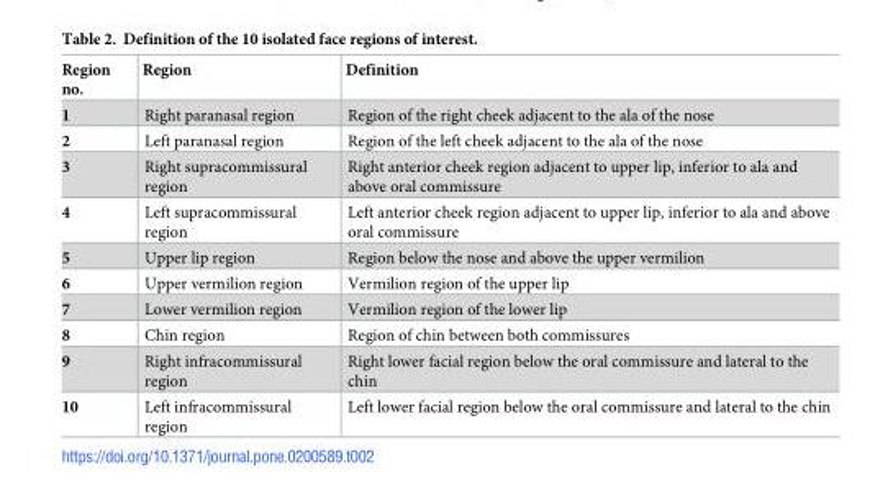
<table><thead><tr><td>Region no.</td><td>Region</td><td>Definition</td></tr></thead><tbody><tr><td>1</td><td>Right paranasal region</td><td>Region of the right cheek adjacent to the ala of the nose</td></tr><tr><td>2</td><td>Left paranasal region</td><td>Region of the left cheek adjacent to the ala of the nose</td></tr><tr><td>3</td><td>Right supracommissural region</td><td>Right anterior cheek region adjacent to upper lip, inferior to ala and above oral commissure</td></tr><tr><td>4</td><td>Left supracommissural region</td><td>Left anterior cheek region adjacent to upper lip, inferior to ala and above oral commissure</td></tr><tr><td>5</td><td>Upper lip region</td><td>Region below the nose and above the upper vermilion</td></tr><tr><td>6</td><td>Upper vermilion region</td><td>Vermilion region of the upper lip</td></tr><tr><td>7</td><td>Lower vermilion region</td><td>Vermilion region of the lower lip</td></tr><tr><td>8</td><td>Chin region</td><td>Region of chin between both commissures</td></tr><tr><td>9</td><td>Right infracommissural region</td><td>Right lower facial region below the oral commissure and lateral to the chin</td></tr><tr><td>10</td><td>Left infracommissural region</td><td>Left lower facial region below the oral commissure and lateral to the chin</td></tr></tbody></table>